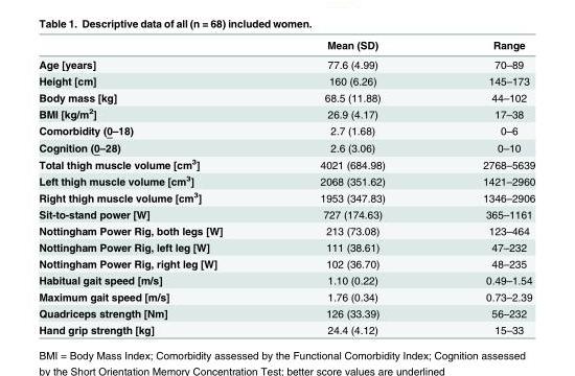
<table><thead><tr><td></td><td>Mean (SD)</td><td>Range</td></tr></thead><tbody><tr><td>Age [years]</td><td>77.6 (4.99)</td><td>70–89</td></tr><tr><td>Height [cm]</td><td>160 (6.26)</td><td>145–173</td></tr><tr><td>Body mass [kg]</td><td>68.5 (11.88)</td><td>44–102</td></tr><tr><td>BMI [kg/m<sup>2</sup>]</td><td>26.9 (4.17)</td><td>17–38</td></tr><tr><td>Comorbidity (0–18)</td><td>2.7 (1.68)</td><td>0–6</td></tr><tr><td>Cognition (0–28)</td><td>2.6 (3.06)</td><td>0–10</td></tr><tr><td>Total thigh muscle volume [cm<sup>3</sup>]</td><td>4021 (684.98)</td><td>2768–5639</td></tr><tr><td>Left thigh muscle volume [cm<sup>3</sup>]</td><td>2068 (351.62)</td><td>1421–2960</td></tr><tr><td>Right thigh muscle volume [cm<sup>3</sup>]</td><td>1953 (347.83)</td><td>1346–2906</td></tr><tr><td>Sit-to-stand power [W]</td><td>727 (174.63)</td><td>365–1161</td></tr><tr><td>Nottingham Power Rig, both legs [W]</td><td>213 (73.08)</td><td>123–464</td></tr><tr><td>Nottingham Power Rig, left leg [W]</td><td>111 (38.61)</td><td>47–232</td></tr><tr><td>Nottingham Power Rig, right leg [W]</td><td>102 (36.70)</td><td>48–235</td></tr><tr><td>Habitual gait speed [m/s]</td><td>1.10 (0.22)</td><td>0.49–1.54</td></tr><tr><td>Maximum gait speed [m/s]</td><td>1.76 (0.34)</td><td>0.73–2.39</td></tr><tr><td>Quadriceps strength [Nm]</td><td>126 (33.39)</td><td>56–232</td></tr><tr><td>Hand grip strength [kg]</td><td>24.4 (4.12)</td><td>15–33</td></tr></tbody></table>